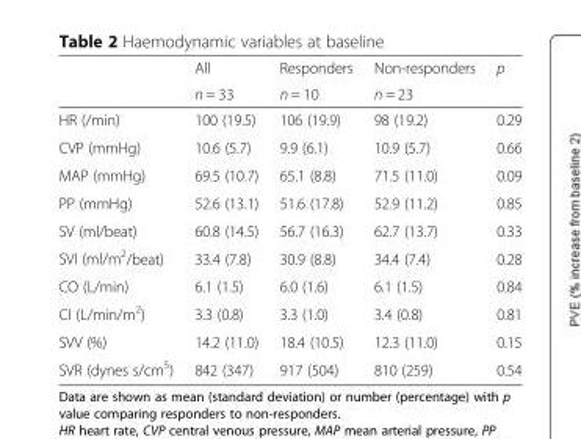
<table><thead><tr><td rowspan="2"></td><td rowspan="2">All n = 33</td><td rowspan="2">Responders n = 10</td><td rowspan="2">Non-responders n = 23</td><td rowspan="2">p</td></tr><tr></tr></thead><tbody><tr><td>HR (/min)</td><td>100 (19.5)</td><td>106 (19.9)</td><td>98 (19.2)</td><td>0.29</td></tr><tr><td>CVP (mmHg)</td><td>10.6 (5.7)</td><td>9.9 (6.1)</td><td>10.9 (5.7)</td><td>0.66</td></tr><tr><td>MAP (mmHg)</td><td>69.5 (10.7)</td><td>65.1 (8.8)</td><td>71.5 (11.0)</td><td>0.09</td></tr><tr><td>PP (mmHg)</td><td>52.6 (13.1)</td><td>51.6 (17.8)</td><td>52.9 (11.2)</td><td>0.85</td></tr><tr><td>SV (ml/beat)</td><td>60.8 (14.5)</td><td>56.7 (16.3)</td><td>62.7 (13.7)</td><td>0.33</td></tr><tr><td>SVI (ml/m<sup>2</sup>/beat)</td><td>33.4 (7.8)</td><td>30.9 (8.8)</td><td>34.4 (7.4)</td><td>0.28</td></tr><tr><td>CO (L/min)</td><td>6.1 (1.5)</td><td>6.0 (1.6)</td><td>6.1 (1.5)</td><td>0.84</td></tr><tr><td>CI (L/min/m<sup>2</sup>)</td><td>3.3 (0.8)</td><td>3.3 (1.0)</td><td>3.4 (0.8)</td><td>0.81</td></tr><tr><td>SVV (%)</td><td>14.2 (11.0)</td><td>18.4 (10.5)</td><td>12.3 (11.0)</td><td>0.15</td></tr><tr><td>SVR (dynes s/cm<sup>5</sup>)</td><td>842 (347)</td><td>917 (504)</td><td>810 (259)</td><td>0.54</td></tr></tbody></table>